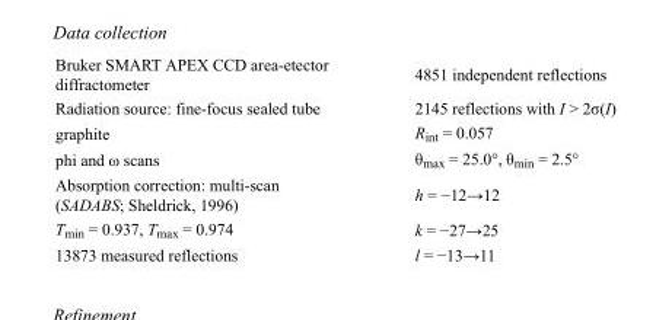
<table><tbody><tr><td>Bruker SMART APEX CCD area-etector diffractometer</td><td>4851 independent reflections</td></tr><tr><td>Radiation source: fine-focus sealed tube</td><td>2145 reflections with I &gt; 2σ(I)</td></tr><tr><td>graphite</td><td>R<sub>int</sub> = 0.057</td></tr><tr><td>phi and ω scans</td><td>θ<sub>max</sub> = 25.0°, θ<sub>min</sub> = 2.5°</td></tr><tr><td>Absorption correction: multi-scan (SADABS; Sheldrick, 1996)</td><td>h = −12→12</td></tr><tr><td>T<sub>min</sub> = 0.937, T<sub>max</sub> = 0.974</td><td>k = −27→25</td></tr><tr><td>13873 measured reflections</td><td>l = −13→11</td></tr></tbody></table>